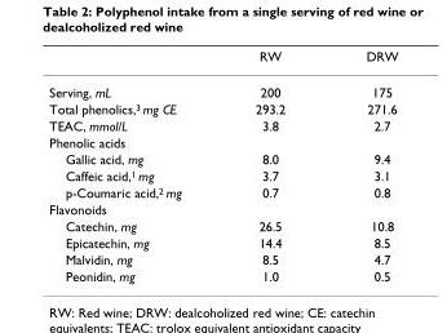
<table><thead><tr><td></td><td>RW</td><td>DRW</td></tr></thead><tbody><tr><td>Serving, mL</td><td>200</td><td>175</td></tr><tr><td>Total phenolics,<sup>3</sup> mg CE</td><td>293.2</td><td>271.6</td></tr><tr><td>TEAC, mmol/L</td><td>3.8</td><td>2.7</td></tr><tr><td colspan="3">Phenolic acids</td></tr><tr><td>Gallic acid, mg</td><td>8.0</td><td>9.4</td></tr><tr><td>Caffeic acid,<sup>1</sup> mg</td><td>3.7</td><td>3.1</td></tr><tr><td>p-Coumaric acid,<sup>2</sup> mg</td><td>0.7</td><td>0.8</td></tr><tr><td colspan="3">Flavonoids</td></tr><tr><td>Catechin, mg</td><td>26.5</td><td>10.8</td></tr><tr><td>Epicatechin, mg</td><td>14.4</td><td>8.5</td></tr><tr><td>Malvidin, mg</td><td>8.5</td><td>4.7</td></tr><tr><td>Peonidin, mg</td><td>1.0</td><td>0.5</td></tr></tbody></table>